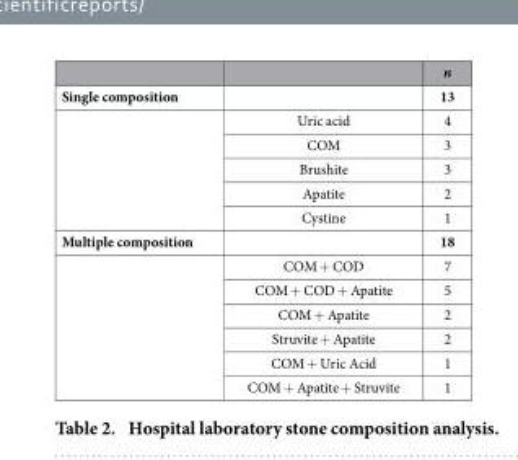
<table><thead><tr><td></td><td></td><td>n</td></tr></thead><tbody><tr><td rowspan="6">Single composition</td><td></td><td>13</td></tr><tr><td>Uric acid</td><td>4</td></tr><tr><td>COM</td><td>3</td></tr><tr><td>Brushite</td><td>3</td></tr><tr><td>Apatite</td><td>2</td></tr><tr><td>Cystine</td><td>1</td></tr><tr><td rowspan="7">Multiple composition</td><td></td><td>18</td></tr><tr><td>COM + COD</td><td>7</td></tr><tr><td>COM + COD + Apatite</td><td>5</td></tr><tr><td>COM + Apatite</td><td>2</td></tr><tr><td>Struvite + Apatite</td><td>2</td></tr><tr><td>COM + Uric Acid</td><td>1</td></tr><tr><td>COM + Apatite + Struvite</td><td>1</td></tr></tbody></table>